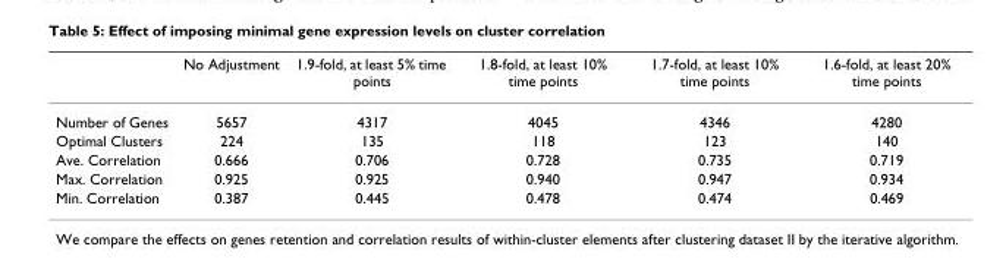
<table><thead><tr><td></td><td>No Adjustment</td><td>1.9-fold, at least 5% time points</td><td>1.8-fold, at least 10% time points</td><td>1.7-fold, at least 10% time points</td><td>1.6-fold, at least 20% time points</td></tr></thead><tbody><tr><td>Number of Genes</td><td>5657</td><td>4317</td><td>4045</td><td>4346</td><td>4280</td></tr><tr><td>Optimal Clusters</td><td>224</td><td>135</td><td>118</td><td>123</td><td>140</td></tr><tr><td>Ave. Correlation</td><td>0.666</td><td>0.706</td><td>0.728</td><td>0.735</td><td>0.719</td></tr><tr><td>Max. Correlation</td><td>0.925</td><td>0.925</td><td>0.940</td><td>0.947</td><td>0.934</td></tr><tr><td>Min. Correlation</td><td>0.387</td><td>0.445</td><td>0.478</td><td>0.474</td><td>0.469</td></tr></tbody></table>